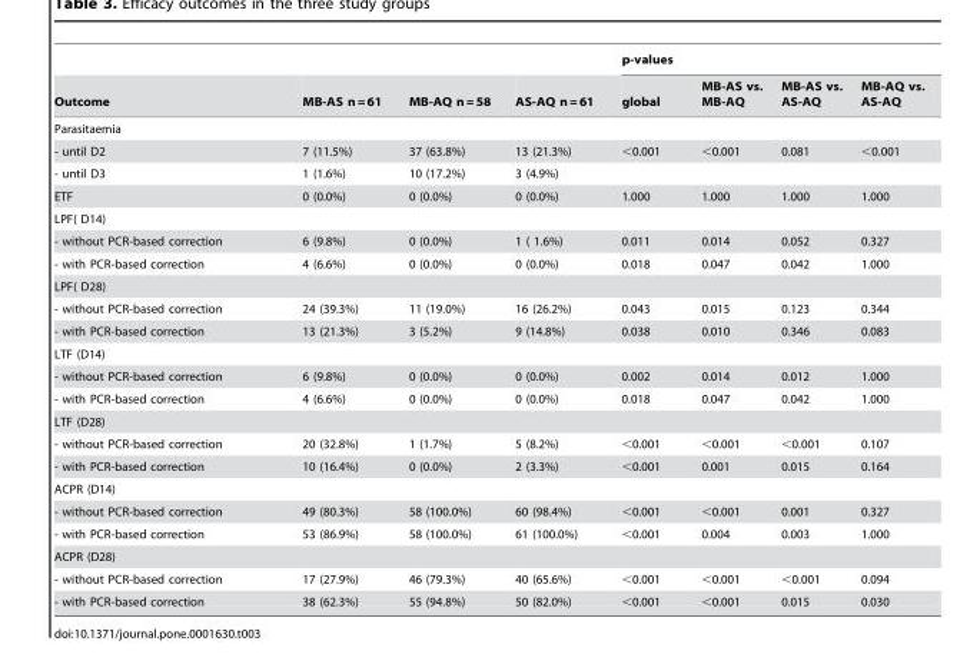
<table><thead><tr><td rowspan="2">Outcome</td><td rowspan="2">MB-AS n = 61</td><td rowspan="2">MB-AQ n = 58</td><td rowspan="2">AS-AQ n = 61</td><td colspan="4">p-values</td></tr><tr><td>global</td><td>MB-AS vs. MB-AQ</td><td>MB-AS vs. AS-AQ</td><td>MB-AQ vs. AS-AQ</td></tr></thead><tbody><tr><td colspan="8">Parasitaemia</td></tr><tr><td>- until D2</td><td>7 (11.5%)</td><td>37 (63.8%)</td><td>13 (21.3%)</td><td>&lt;0.001</td><td>&lt;0.001</td><td>0.081</td><td>&lt;0.001</td></tr><tr><td>- until D3</td><td>1 (1.6%)</td><td>10 (17.2%)</td><td>3 (4.9%)</td><td></td><td></td><td></td><td></td></tr><tr><td>ETF</td><td>0 (0.0%)</td><td>0 (0.0%)</td><td>0 (0.0%)</td><td>1.000</td><td>1.000</td><td>1.000</td><td>1.000</td></tr><tr><td colspan="8">LPF( D14)</td></tr><tr><td>- without PCR-based correction</td><td>6 (9.8%)</td><td>0 (0.0%)</td><td>1 ( 1.6%)</td><td>0.011</td><td>0.014</td><td>0.052</td><td>0.327</td></tr><tr><td>- with PCR-based correction</td><td>4 (6.6%)</td><td>0 (0.0%)</td><td>0 (0.0%)</td><td>0.018</td><td>0.047</td><td>0.042</td><td>1.000</td></tr><tr><td colspan="8">LPF( D28)</td></tr><tr><td>- without PCR-based correction</td><td>24 (39.3%)</td><td>11 (19.0%)</td><td>16 (26.2%)</td><td>0.043</td><td>0.015</td><td>0.123</td><td>0.344</td></tr><tr><td>- with PCR-based correction</td><td>13 (21.3%)</td><td>3 (5.2%)</td><td>9 (14.8%)</td><td>0.038</td><td>0.010</td><td>0.346</td><td>0.083</td></tr><tr><td colspan="8">LTF (D14)</td></tr><tr><td>- without PCR-based correction</td><td>6 (9.8%)</td><td>0 (0.0%)</td><td>0 (0.0%)</td><td>0.002</td><td>0.014</td><td>0.012</td><td>1.000</td></tr><tr><td>- with PCR-based correction</td><td>4 (6.6%)</td><td>0 (0.0%)</td><td>0 (0.0%)</td><td>0.018</td><td>0.047</td><td>0.042</td><td>1.000</td></tr><tr><td colspan="8">LTF (D28)</td></tr><tr><td>- without PCR-based correction</td><td>20 (32.8%)</td><td>1 (1.7%)</td><td>5 (8.2%)</td><td>&lt;0.001</td><td>&lt;0.001</td><td>&lt;0.001</td><td>0.107</td></tr><tr><td>- with PCR-based correction</td><td>10 (16.4%)</td><td>0 (0.0%)</td><td>2 (3.3%)</td><td>&lt;0.001</td><td>0.001</td><td>0.015</td><td>0.164</td></tr><tr><td colspan="8">ACPR (D14)</td></tr><tr><td>- without PCR-based correction</td><td>49 (80.3%)</td><td>58 (100.0%)</td><td>60 (98.4%)</td><td>&lt;0.001</td><td>&lt;0.001</td><td>0.001</td><td>0.327</td></tr><tr><td>- with PCR-based correction</td><td>53 (86.9%)</td><td>58 (100.0%)</td><td>61 (100.0%)</td><td>&lt;0.001</td><td>0.004</td><td>0.003</td><td>1.000</td></tr><tr><td colspan="8">ACPR (D28)</td></tr><tr><td>- without PCR-based correction</td><td>17 (27.9%)</td><td>46 (79.3%)</td><td>40 (65.6%)</td><td>&lt;0.001</td><td>&lt;0.001</td><td>&lt;0.001</td><td>0.094</td></tr><tr><td>- with PCR-based correction</td><td>38 (62.3%)</td><td>55 (94.8%)</td><td>50 (82.0%)</td><td>&lt;0.001</td><td>&lt;0.001</td><td>0.015</td><td>0.030</td></tr></tbody></table>